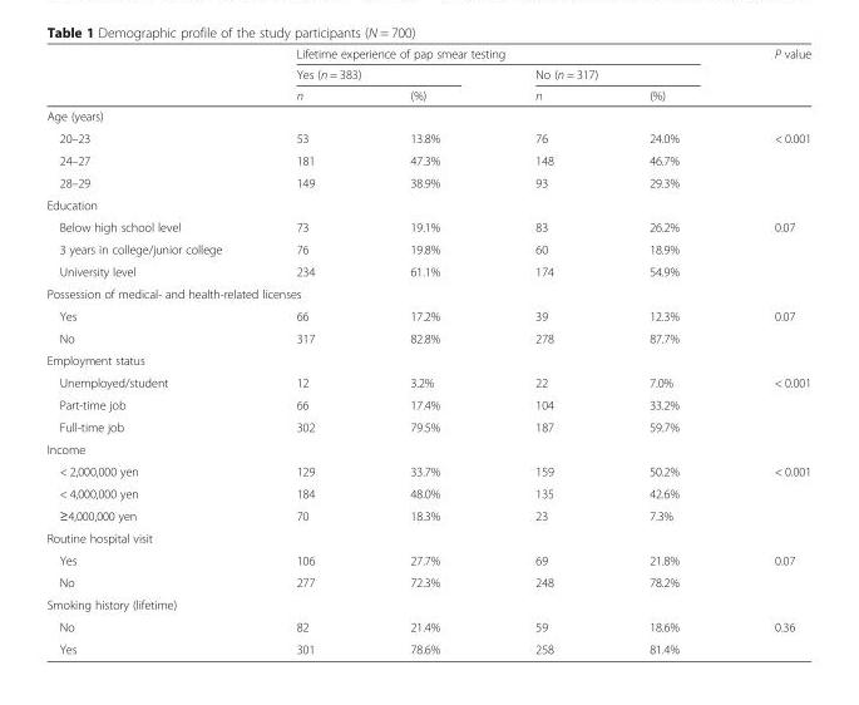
<table><thead><tr><td rowspan="3"></td><td colspan="4">Lifetime experience of pap smear testing</td><td rowspan="3">P value</td></tr><tr><td colspan="2">Yes (n = 383)</td><td colspan="2">No (n = 317)</td></tr><tr><td>n</td><td>(%)</td><td>n</td><td>(%)</td></tr></thead><tbody><tr><td colspan="6">Age (years)</td></tr><tr><td>20–23</td><td>53</td><td>13.8%</td><td>76</td><td>24.0%</td><td>&lt; 0.001</td></tr><tr><td>24–27</td><td>181</td><td>47.3%</td><td>148</td><td>46.7%</td><td></td></tr><tr><td>28–29</td><td>149</td><td>38.9%</td><td>93</td><td>29.3%</td><td></td></tr><tr><td colspan="6">Education</td></tr><tr><td>Below high school level</td><td>73</td><td>19.1%</td><td>83</td><td>26.2%</td><td>0.07</td></tr><tr><td>3 years in college/junior college</td><td>76</td><td>19.8%</td><td>60</td><td>18.9%</td><td></td></tr><tr><td>University level</td><td>234</td><td>61.1%</td><td>174</td><td>54.9%</td><td></td></tr><tr><td colspan="6">Possession of medical- and health-related licenses</td></tr><tr><td>Yes</td><td>66</td><td>17.2%</td><td>39</td><td>12.3%</td><td>0.07</td></tr><tr><td>No</td><td>317</td><td>82.8%</td><td>278</td><td>87.7%</td><td></td></tr><tr><td colspan="6">Employment status</td></tr><tr><td>Unemployed/student</td><td>12</td><td>3.2%</td><td>22</td><td>7.0%</td><td>&lt; 0.001</td></tr><tr><td>Part-time job</td><td>66</td><td>17.4%</td><td>104</td><td>33.2%</td><td></td></tr><tr><td>Full-time job</td><td>302</td><td>79.5%</td><td>187</td><td>59.7%</td><td></td></tr><tr><td colspan="6">Income</td></tr><tr><td>&lt; 2,000,000 yen</td><td>129</td><td>33.7%</td><td>159</td><td>50.2%</td><td>&lt; 0.001</td></tr><tr><td>&lt; 4,000,000 yen</td><td>184</td><td>48.0%</td><td>135</td><td>42.6%</td><td></td></tr><tr><td>≥4,000,000 yen</td><td>70</td><td>18.3%</td><td>23</td><td>7.3%</td><td></td></tr><tr><td colspan="6">Routine hospital visit</td></tr><tr><td>Yes</td><td>106</td><td>27.7%</td><td>69</td><td>21.8%</td><td>0.07</td></tr><tr><td>No</td><td>277</td><td>72.3%</td><td>248</td><td>78.2%</td><td></td></tr><tr><td colspan="6">Smoking history (lifetime)</td></tr><tr><td>No</td><td>82</td><td>21.4%</td><td>59</td><td>18.6%</td><td>0.36</td></tr><tr><td>Yes</td><td>301</td><td>78.6%</td><td>258</td><td>81.4%</td><td></td></tr></tbody></table>